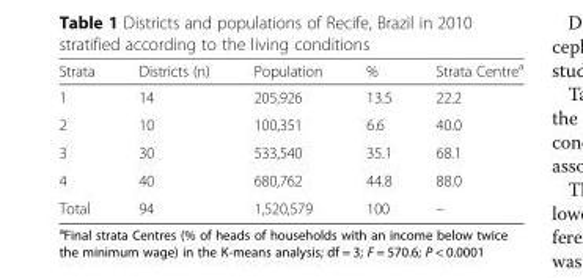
<table><thead><tr><td>Strata</td><td>Districts (n)</td><td>Population</td><td>%</td><td>Strata Centre<sup>a</sup></td></tr></thead><tbody><tr><td>1</td><td>14</td><td>205,926</td><td>13.5</td><td>22.2</td></tr><tr><td>2</td><td>10</td><td>100,351</td><td>6.6</td><td>40.0</td></tr><tr><td>3</td><td>30</td><td>533,540</td><td>35.1</td><td>68.1</td></tr><tr><td>4</td><td>40</td><td>680,762</td><td>44.8</td><td>88.0</td></tr><tr><td>Total</td><td>94</td><td>1,520,579</td><td>100</td><td>–</td></tr></tbody></table>